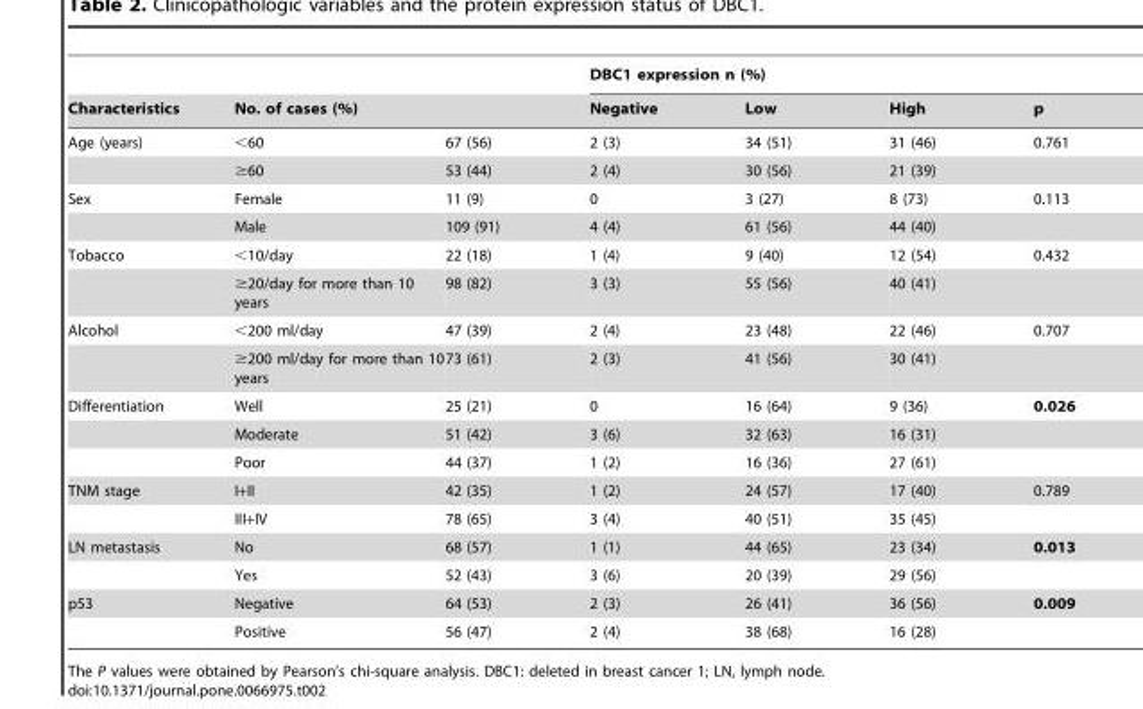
<table><thead><tr><td rowspan="2">Characteristics</td><td></td><td></td><td colspan="4">DBC1 expression n (%)</td></tr><tr><td colspan="2">No. of cases (%)</td><td>Negative</td><td>Low</td><td>High</td><td>p</td></tr></thead><tbody><tr><td rowspan="2">Age (years)</td><td>&lt;60</td><td>67 (56)</td><td>2 (3)</td><td>34 (51)</td><td>31 (46)</td><td>0.761</td></tr><tr><td>≥60</td><td>53 (44)</td><td>2 (4)</td><td>30 (56)</td><td>21 (39)</td><td></td></tr><tr><td rowspan="2">Sex</td><td>Female</td><td>11 (9)</td><td>0</td><td>3 (27)</td><td>8 (73)</td><td>0.113</td></tr><tr><td>Male</td><td>109 (91)</td><td>4 (4)</td><td>61 (56)</td><td>44 (40)</td><td></td></tr><tr><td rowspan="2">Tobacco</td><td>&lt;10/day</td><td>22 (18)</td><td>1 (4)</td><td>9 (40)</td><td>12 (54)</td><td>0.432</td></tr><tr><td>≥20/day for more than 10 years</td><td>98 (82)</td><td>3 (3)</td><td>55 (56)</td><td>40 (41)</td><td></td></tr><tr><td rowspan="2">Alcohol</td><td>&lt;200 ml/day</td><td>47 (39)</td><td>2 (4)</td><td>23 (48)</td><td>22 (46)</td><td>0.707</td></tr><tr><td>≥200 ml/day for more than 10 years</td><td>73 (61)</td><td>2 (3)</td><td>41 (56)</td><td>30 (41)</td><td></td></tr><tr><td rowspan="3">Differentiation</td><td>Well</td><td>25 (21)</td><td>0</td><td>16 (64)</td><td>9 (36)</td><td>0.026</td></tr><tr><td>Moderate</td><td>51 (42)</td><td>3 (6)</td><td>32 (63)</td><td>16 (31)</td><td></td></tr><tr><td>Poor</td><td>44 (37)</td><td>1 (2)</td><td>16 (36)</td><td>27 (61)</td><td></td></tr><tr><td rowspan="2">TNM stage</td><td>I+II</td><td>42 (35)</td><td>1 (2)</td><td>24 (57)</td><td>17 (40)</td><td>0.789</td></tr><tr><td>III+IV</td><td>78 (65)</td><td>3 (4)</td><td>40 (51)</td><td>35 (45)</td><td></td></tr><tr><td rowspan="2">LN metastasis</td><td>No</td><td>68 (57)</td><td>1 (1)</td><td>44 (65)</td><td>23 (34)</td><td>0.013</td></tr><tr><td>Yes</td><td>52 (43)</td><td>3 (6)</td><td>20 (39)</td><td>29 (56)</td><td></td></tr><tr><td rowspan="2">p53</td><td>Negative</td><td>64 (53)</td><td>2 (3)</td><td>26 (41)</td><td>36 (56)</td><td>0.009</td></tr><tr><td>Positive</td><td>56 (47)</td><td>2 (4)</td><td>38 (68)</td><td>16 (28)</td><td></td></tr></tbody></table>